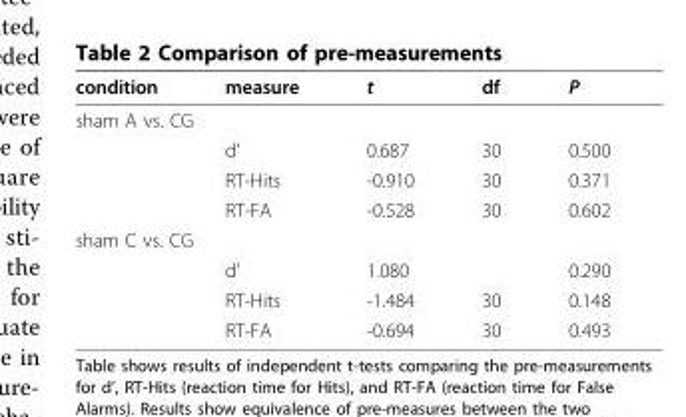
<table><thead><tr><td>condition</td><td>measure</td><td>t</td><td>df</td><td>P</td></tr></thead><tbody><tr><td colspan="5">sham A vs. CG</td></tr><tr><td></td><td>d’</td><td>0.687</td><td>30</td><td>0.500</td></tr><tr><td></td><td>RT-Hits</td><td>-0.910</td><td>30</td><td>0.371</td></tr><tr><td></td><td>RT-FA</td><td>-0.528</td><td>30</td><td>0.602</td></tr><tr><td colspan="5">sham C vs. CG</td></tr><tr><td></td><td>d’</td><td>1.080</td><td></td><td>0.290</td></tr><tr><td></td><td>RT-Hits</td><td>-1.484</td><td>30</td><td>0.148</td></tr><tr><td></td><td>RT-FA</td><td>-0.694</td><td>30</td><td>0.493</td></tr></tbody></table>